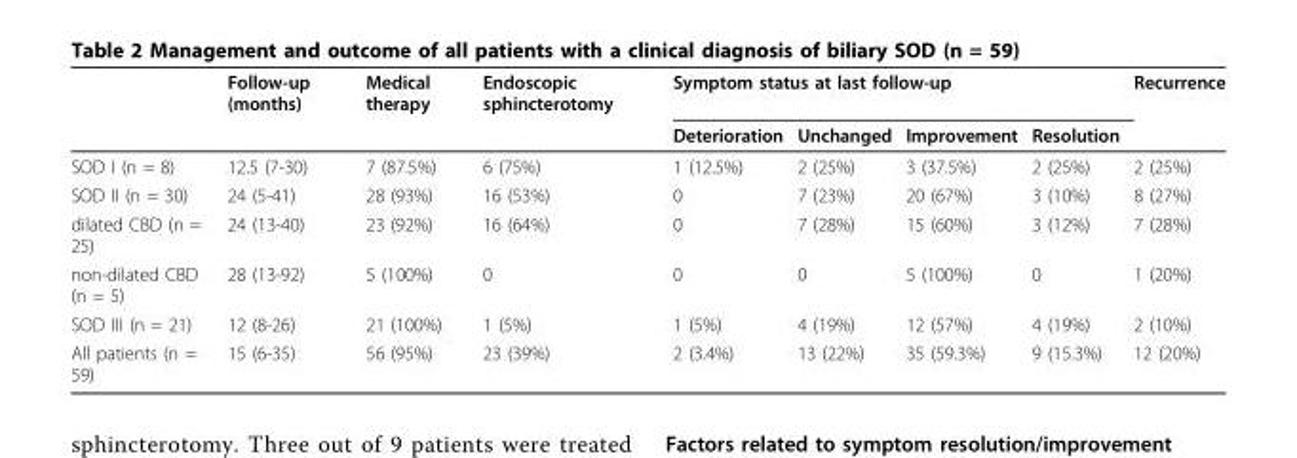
<table><thead><tr><td rowspan="2"></td><td rowspan="2">Follow-up (months)</td><td rowspan="2">Medical therapy</td><td rowspan="2">Endoscopic sphincterotomy</td><td colspan="4">Symptom status at last follow-up</td><td rowspan="2">Recurrence</td></tr><tr><td>Deterioration</td><td>Unchanged</td><td>Improvement</td><td>Resolution</td></tr></thead><tbody><tr><td>SOD I (n = 8)</td><td>12.5 (7-30)</td><td>7 (87.5%)</td><td>6 (75%)</td><td>1 (12.5%)</td><td>2 (25%)</td><td>3 (37.5%)</td><td>2 (25%)</td><td>2 (25%)</td></tr><tr><td>SOD II (n = 30)</td><td>24 (5-41)</td><td>28 (93%)</td><td>16 (53%)</td><td>0</td><td>7 (23%)</td><td>20 (67%)</td><td>3 (10%)</td><td>8 (27%)</td></tr><tr><td>dilated CBD (n = 25)</td><td>24 (13-40)</td><td>23 (92%)</td><td>16 (64%)</td><td>0</td><td>7 (28%)</td><td>15 (60%)</td><td>3 (12%)</td><td>7 (28%)</td></tr><tr><td>non-dilated CBD (n = 5)</td><td>28 (13-92)</td><td>5 (100%)</td><td>0</td><td>0</td><td>0</td><td>5 (100%)</td><td>0</td><td>1 (20%)</td></tr><tr><td>SOD III (n = 21)</td><td>12 (8-26)</td><td>21 (100%)</td><td>1 (5%)</td><td>1 (5%)</td><td>4 (19%)</td><td>12 (57%)</td><td>4 (19%)</td><td>2 (10%)</td></tr><tr><td>All patients (n = 59)</td><td>15 (6-35)</td><td>56 (95%)</td><td>23 (39%)</td><td>2 (3.4%)</td><td>13 (22%)</td><td>35 (59.3%)</td><td>9 (15.3%)</td><td>12 (20%)</td></tr></tbody></table>